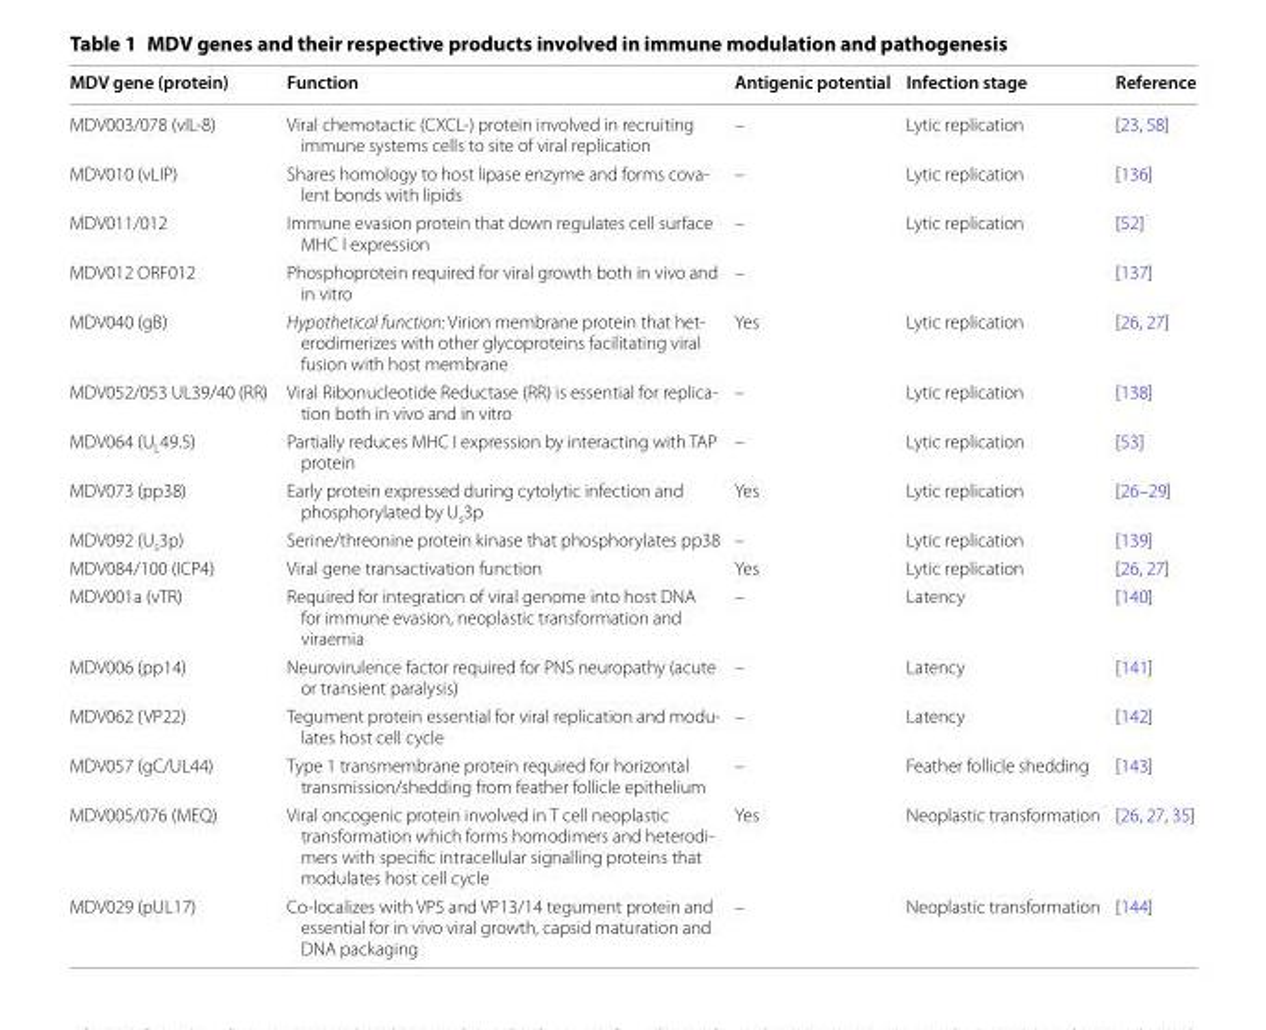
<table><thead><tr><td>MDV gene (protein)</td><td>Function</td><td>Antigenic potential</td><td>Infection stage</td><td>Reference</td></tr></thead><tbody><tr><td>MDV003/078 (vIL-8)</td><td>Viral chemotactic (CXCL-) protein involved in recruiting immune systems cells to site of viral replication</td><td>–</td><td>Lytic replication</td><td>[23, 58]</td></tr><tr><td>MDV010 (vLIP)</td><td>Shares homology to host lipase enzyme and forms cova- lent bonds with lipids</td><td>–</td><td>Lytic replication</td><td>[136]</td></tr><tr><td>MDV011/012</td><td>Immune evasion protein that down regulates cell surface MHC I expression</td><td>–</td><td>Lytic replication</td><td>[52]</td></tr><tr><td>MDV012 ORF012</td><td>Phosphoprotein required for viral growth both in vivo and in vitro</td><td>–</td><td></td><td>[137]</td></tr><tr><td>MDV040 (gB)</td><td>Hypothetical function: Virion membrane protein that het- erodimerizes with other glycoproteins facilitating viral fusion with host membrane</td><td>Yes</td><td>Lytic replication</td><td>[26, 27]</td></tr><tr><td>MDV052/053 UL39/40 (RR)</td><td>Viral Ribonucleotide Reductase (RR) is essential for replica- tion both in vivo and in vitro</td><td>–</td><td>Lytic replication</td><td>[138]</td></tr><tr><td>MDV064 (U<sub>L</sub>49.5)</td><td>Partially reduces MHC I expression by interacting with TAP protein</td><td>–</td><td>Lytic replication</td><td>[53]</td></tr><tr><td>MDV073 (pp38)</td><td>Early protein expressed during cytolytic infection and phosphorylated by U<sub>s</sub>3p</td><td>Yes</td><td>Lytic replication</td><td>[26–29]</td></tr><tr><td>MDV092 (U<sub>s</sub>3p)</td><td>Serine/threonine protein kinase that phosphorylates pp38</td><td>–</td><td>Lytic replication</td><td>[139]</td></tr><tr><td>MDV084/100 (ICP4)</td><td>Viral gene transactivation function</td><td>Yes</td><td>Lytic replication</td><td>[26, 27]</td></tr><tr><td>MDV001a (vTR)</td><td>Required for integration of viral genome into host DNA for immune evasion, neoplastic transformation and viraemia</td><td>–</td><td>Latency</td><td>[140]</td></tr><tr><td>MDV006 (pp14)</td><td>Neurovirulence factor required for PNS neuropathy (acute or transient paralysis)</td><td>–</td><td>Latency</td><td>[141]</td></tr><tr><td>MDV062 (VP22)</td><td>Tegument protein essential for viral replication and modu- lates host cell cycle</td><td>–</td><td>Latency</td><td>[142]</td></tr><tr><td>MDV057 (gC/UL44)</td><td>Type 1 transmembrane protein required for horizontal transmission/shedding from feather follicle epithelium</td><td>–</td><td>Feather follicle shedding</td><td>[143]</td></tr><tr><td>MDV005/076 (MEQ)</td><td>Viral oncogenic protein involved in T cell neoplastic transformation which forms homodimers and heterodi- mers with specific intracellular signalling proteins that modulates host cell cycle</td><td>Yes</td><td>Neoplastic transformation</td><td>[26, 27, 35]</td></tr><tr><td>MDV029 (pUL17)</td><td>Co-localizes with VP5 and VP13/14 tegument protein and essential for in vivo viral growth, capsid maturation and DNA packaging</td><td>–</td><td>Neoplastic transformation</td><td>[144]</td></tr></tbody></table>